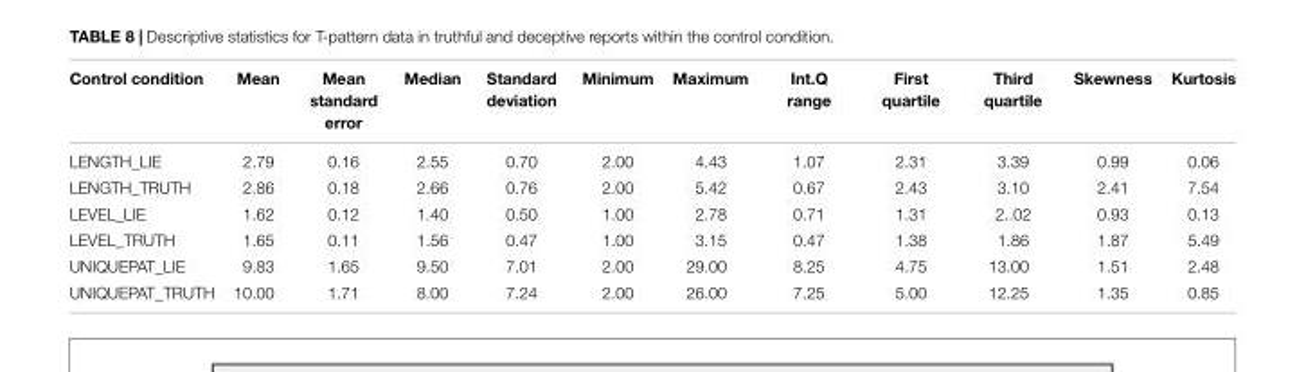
<table><thead><tr><td>Control condition</td><td>Mean</td><td>Mean standard error</td><td>Median</td><td>Standard deviation</td><td>Minimum</td><td>Maximum</td><td>Int.Q range</td><td>First quartile</td><td>Third quartile</td><td>Skewness</td><td>Kurtosis</td></tr></thead><tbody><tr><td>LENGTH_LIE</td><td>2.79</td><td>0.16</td><td>2.55</td><td>0.70</td><td>2.00</td><td>4.43</td><td>1.07</td><td>2.31</td><td>3.39</td><td>0.99</td><td>0.06</td></tr><tr><td>LENGTH_TRUTH</td><td>2.86</td><td>0.18</td><td>2.66</td><td>0.76</td><td>2.00</td><td>5.42</td><td>0.67</td><td>2.43</td><td>3.10</td><td>2.41</td><td>7.54</td></tr><tr><td>LEVEL_LIE</td><td>1.62</td><td>0.12</td><td>1.40</td><td>0.50</td><td>1.00</td><td>2.78</td><td>0.71</td><td>1.31</td><td>2..02</td><td>0.93</td><td>0.13</td></tr><tr><td>LEVEL_TRUTH</td><td>1.65</td><td>0.11</td><td>1.56</td><td>0.47</td><td>1.00</td><td>3.15</td><td>0.47</td><td>1.38</td><td>1.86</td><td>1.87</td><td>5.49</td></tr><tr><td>UNIQUEPAT_LIE</td><td>9.83</td><td>1.65</td><td>9.50</td><td>7.01</td><td>2.00</td><td>29.00</td><td>8.25</td><td>4.75</td><td>13.00</td><td>1.51</td><td>2.48</td></tr><tr><td>UNIQUEPAT_TRUTH</td><td>10.00</td><td>1.71</td><td>8.00</td><td>7.24</td><td>2.00</td><td>26.00</td><td>7.25</td><td>5.00</td><td>12.25</td><td>1.35</td><td>0.85</td></tr></tbody></table>